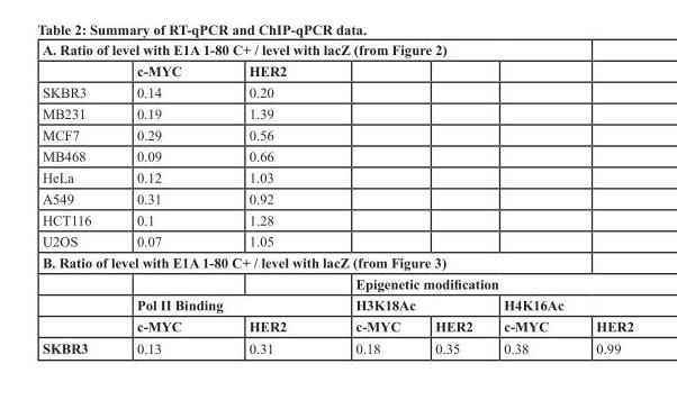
<table><tbody><tr><td colspan="7">A. Ratio of level with E1A 1-80 C+ / level with lacZ (from Figure 2)</td></tr><tr><td></td><td>c-MYC</td><td>HER2</td><td></td><td></td><td></td><td></td></tr><tr><td>SKBR3</td><td>0.14</td><td>0.20</td><td></td><td></td><td></td><td></td></tr><tr><td>MB231</td><td>0.19</td><td>1.39</td><td></td><td></td><td></td><td></td></tr><tr><td>MCF7</td><td>0.29</td><td>0.56</td><td></td><td></td><td></td><td></td></tr><tr><td>MB468</td><td>0.09</td><td>0.66</td><td></td><td></td><td></td><td></td></tr><tr><td>HeLa</td><td>0.12</td><td>1.03</td><td></td><td></td><td></td><td></td></tr><tr><td>A549</td><td>0.31</td><td>0.92</td><td></td><td></td><td></td><td></td></tr><tr><td>HCT116</td><td>0.1</td><td>1.28</td><td></td><td></td><td></td><td></td></tr><tr><td>U2OS</td><td>0.07</td><td>1.05</td><td></td><td></td><td></td><td></td></tr><tr><td colspan="7">B. Ratio of level with E1A 1-80 C+ / level with lacZ (from Figure 3)</td></tr><tr><td></td><td></td><td></td><td colspan="4">Epigenetic modification</td></tr><tr><td></td><td colspan="2">Pol II Binding</td><td colspan="2">H3K18Ac</td><td colspan="2">H4K16Ac</td></tr><tr><td></td><td>c-MYC</td><td>HER2</td><td>c-MYC</td><td>HER2</td><td>c-MYC</td><td>HER2</td></tr><tr><td>SKBR3</td><td>0.13</td><td>0.31</td><td>0.18</td><td>0.35</td><td>0.38</td><td>0.99</td></tr></tbody></table>